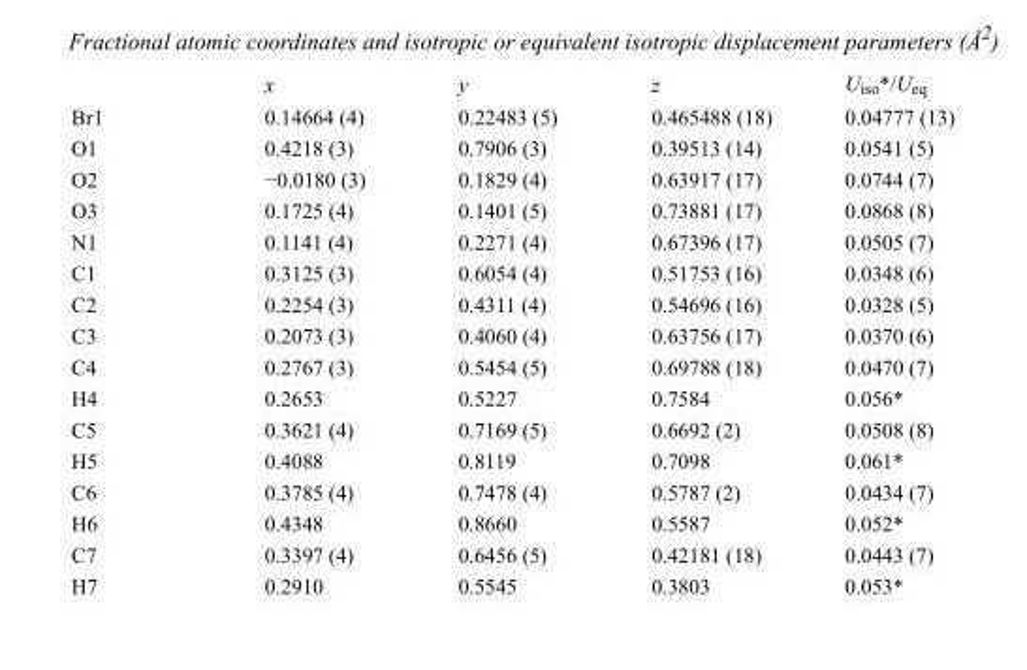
<table><thead><tr><td></td><td>x</td><td>y</td><td>z</td><td>U<sub>iso</sub>*/U<sub>eq</sub></td></tr></thead><tbody><tr><td>Br1</td><td>0.14664 (4)</td><td>0.22483 (5)</td><td>0.465488 (18)</td><td>0.04777 (13)</td></tr><tr><td>O1</td><td>0.4218 (3)</td><td>0.7906 (3)</td><td>0.39513 (14)</td><td>0.0541 (5)</td></tr><tr><td>O2</td><td>−0.0180 (3)</td><td>0.1829 (4)</td><td>0.63917 (17)</td><td>0.0744 (7)</td></tr><tr><td>O3</td><td>0.1725 (4)</td><td>0.1401 (5)</td><td>0.73881 (17)</td><td>0.0868 (8)</td></tr><tr><td>N1</td><td>0.1141 (4)</td><td>0.2271 (4)</td><td>0.67396 (17)</td><td>0.0505 (7)</td></tr><tr><td>C1</td><td>0.3125 (3)</td><td>0.6054 (4)</td><td>0.51753 (16)</td><td>0.0348 (6)</td></tr><tr><td>C2</td><td>0.2254 (3)</td><td>0.4311 (4)</td><td>0.54696 (16)</td><td>0.0328 (5)</td></tr><tr><td>C3</td><td>0.2073 (3)</td><td>0.4060 (4)</td><td>0.63756 (17)</td><td>0.0370 (6)</td></tr><tr><td>C4</td><td>0.2767 (3)</td><td>0.5454 (5)</td><td>0.69788 (18)</td><td>0.0470 (7)</td></tr><tr><td>H4</td><td>0.2653</td><td>0.5227</td><td>0.7584</td><td>0.056*</td></tr><tr><td>C5</td><td>0.3621 (4)</td><td>0.7169 (5)</td><td>0.6692 (2)</td><td>0.0508 (8)</td></tr><tr><td>H5</td><td>0.4088</td><td>0.8119</td><td>0.7098</td><td>0.061*</td></tr><tr><td>C6</td><td>0.3785 (4)</td><td>0.7478 (4)</td><td>0.5787 (2)</td><td>0.0434 (7)</td></tr><tr><td>H6</td><td>0.4348</td><td>0.8660</td><td>0.5587</td><td>0.052*</td></tr><tr><td>C7</td><td>0.3397 (4)</td><td>0.6456 (5)</td><td>0.42181 (18)</td><td>0.0443 (7)</td></tr><tr><td>H7</td><td>0.2910</td><td>0.5545</td><td>0.3803</td><td>0.053*</td></tr></tbody></table>